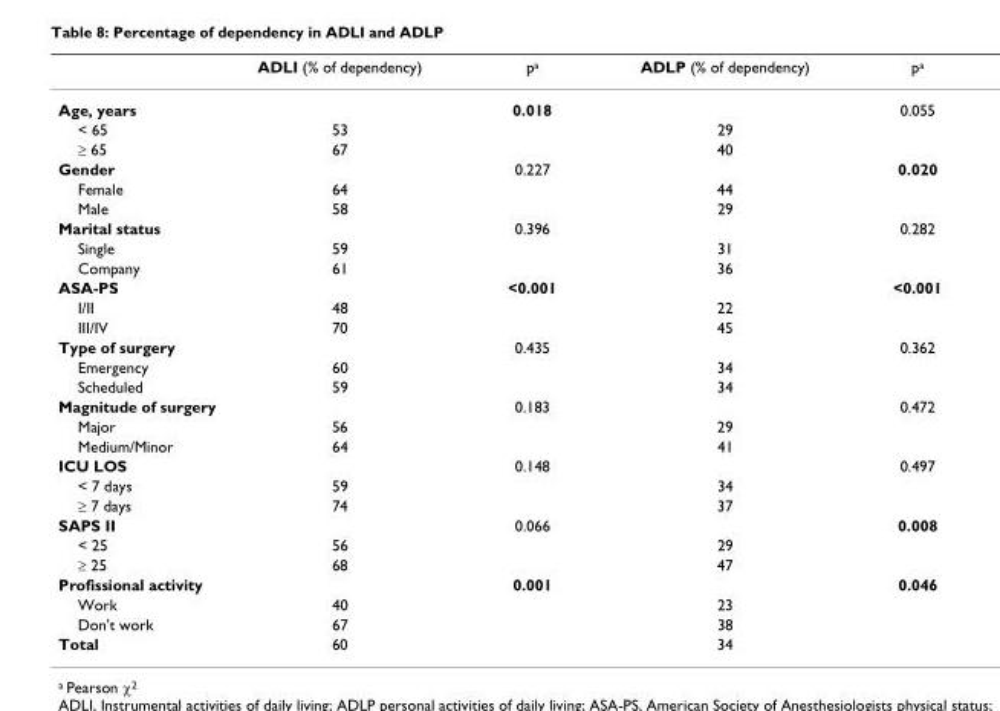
<table><thead><tr><td></td><td>ADLI (% of dependency)</td><td>p<sup>a</sup></td><td>ADLP (% of dependency)</td><td>p<sup>a</sup></td></tr></thead><tbody><tr><td>Age, years</td><td></td><td>0.018</td><td></td><td>0.055</td></tr><tr><td>&lt; 65</td><td>53</td><td></td><td>29</td><td></td></tr><tr><td>≥ 65</td><td>67</td><td></td><td>40</td><td></td></tr><tr><td>Gender</td><td></td><td>0.227</td><td></td><td>0.020</td></tr><tr><td>Female</td><td>64</td><td></td><td>44</td><td></td></tr><tr><td>Male</td><td>58</td><td></td><td>29</td><td></td></tr><tr><td>Marital status</td><td></td><td>0.396</td><td></td><td>0.282</td></tr><tr><td>Single</td><td>59</td><td></td><td>31</td><td></td></tr><tr><td>Company</td><td>61</td><td></td><td>36</td><td></td></tr><tr><td>ASA-PS</td><td></td><td>&lt;0.001</td><td></td><td>&lt;0.001</td></tr><tr><td>I/II</td><td>48</td><td></td><td>22</td><td></td></tr><tr><td>III/IV</td><td>70</td><td></td><td>45</td><td></td></tr><tr><td>Type of surgery</td><td></td><td>0.435</td><td></td><td>0.362</td></tr><tr><td>Emergency</td><td>60</td><td></td><td>34</td><td></td></tr><tr><td>Scheduled</td><td>59</td><td></td><td>34</td><td></td></tr><tr><td>Magnitude of surgery</td><td></td><td>0.183</td><td></td><td>0.472</td></tr><tr><td>Major</td><td>56</td><td></td><td>29</td><td></td></tr><tr><td>Medium/Minor</td><td>64</td><td></td><td>41</td><td></td></tr><tr><td>ICU LOS</td><td></td><td>0.148</td><td></td><td>0.497</td></tr><tr><td>&lt; 7 days</td><td>59</td><td></td><td>34</td><td></td></tr><tr><td>≥ 7 days</td><td>74</td><td></td><td>37</td><td></td></tr><tr><td>SAPS II</td><td></td><td>0.066</td><td></td><td>0.008</td></tr><tr><td>&lt; 25</td><td>56</td><td></td><td>29</td><td></td></tr><tr><td>≥ 25</td><td>68</td><td></td><td>47</td><td></td></tr><tr><td>Profissional activity</td><td></td><td>0.001</td><td></td><td>0.046</td></tr><tr><td>Work</td><td>40</td><td></td><td>23</td><td></td></tr><tr><td>Don&#x27;t work</td><td>67</td><td></td><td>38</td><td></td></tr><tr><td>Total</td><td>60</td><td></td><td>34</td><td></td></tr></tbody></table>